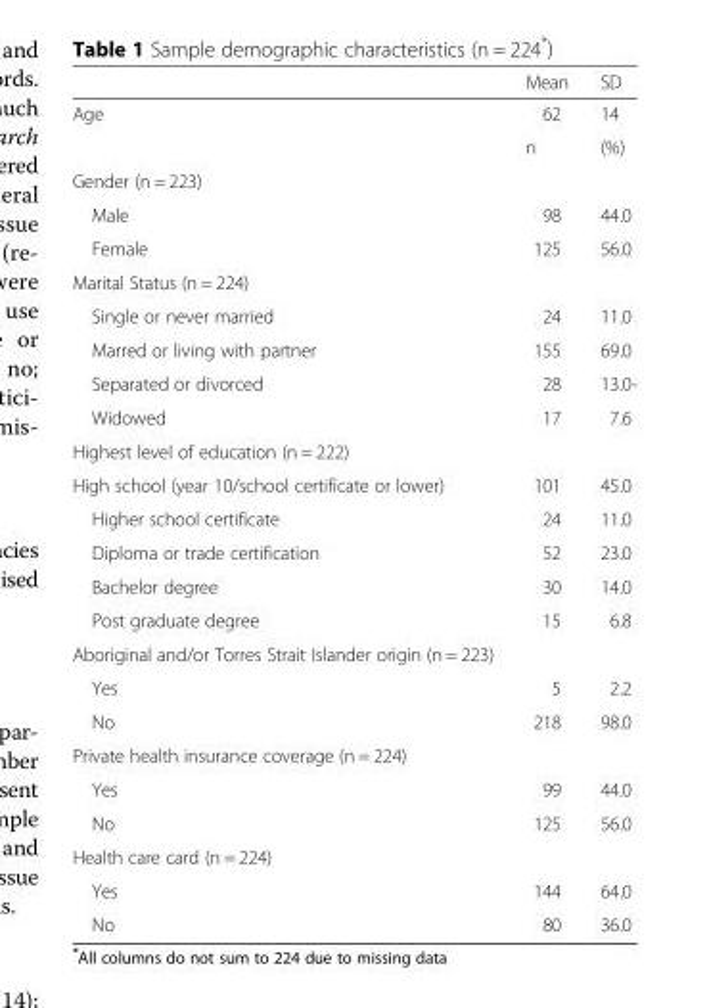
<table><thead><tr><td></td><td>Mean</td><td>SD</td></tr></thead><tbody><tr><td rowspan="2">Age</td><td>62</td><td>14</td></tr><tr><td>n</td><td>(%)</td></tr><tr><td colspan="3">Gender (n = 223)</td></tr><tr><td>Male</td><td>98</td><td>44.0</td></tr><tr><td>Female</td><td>125</td><td>56.0</td></tr><tr><td colspan="3">Marital Status (n = 224)</td></tr><tr><td>Single or never married</td><td>24</td><td>11.0</td></tr><tr><td>Marred or living with partner</td><td>155</td><td>69.0</td></tr><tr><td>Separated or divorced</td><td>28</td><td>13.0-</td></tr><tr><td>Widowed</td><td>17</td><td>7.6</td></tr><tr><td colspan="3">Highest level of education (n = 222)</td></tr><tr><td>High school (year 10/school certificate or lower)</td><td>101</td><td>45.0</td></tr><tr><td>Higher school certificate</td><td>24</td><td>11.0</td></tr><tr><td>Diploma or trade certification</td><td>52</td><td>23.0</td></tr><tr><td>Bachelor degree</td><td>30</td><td>14.0</td></tr><tr><td>Post graduate degree</td><td>15</td><td>6.8</td></tr><tr><td colspan="3">Aboriginal and/or Torres Strait Islander origin (n = 223)</td></tr><tr><td>Yes</td><td>5</td><td>2.2</td></tr><tr><td>No</td><td>218</td><td>98.0</td></tr><tr><td colspan="3">Private health insurance coverage (n = 224)</td></tr><tr><td>Yes</td><td>99</td><td>44.0</td></tr><tr><td>No</td><td>125</td><td>56.0</td></tr><tr><td colspan="3">Health care card (n = 224)</td></tr><tr><td>Yes</td><td>144</td><td>64.0</td></tr><tr><td>No</td><td>80</td><td>36.0</td></tr></tbody></table>